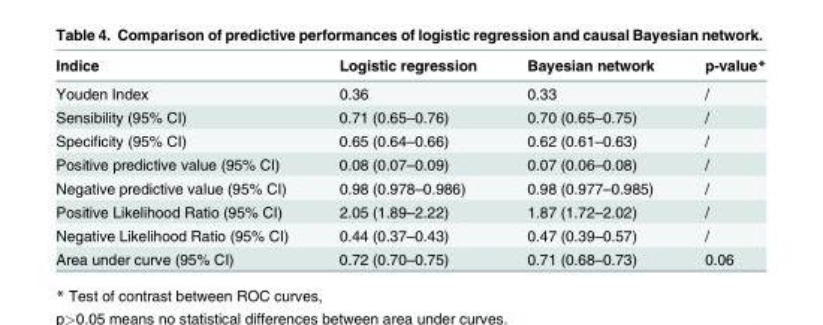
<table><thead><tr><td>Indice</td><td>Logistic regression</td><td>Bayesian network</td><td>p-value*</td></tr></thead><tbody><tr><td>Youden Index</td><td>0.36</td><td>0.33</td><td>/</td></tr><tr><td>Sensibility (95% CI)</td><td>0.71 (0.65–0.76)</td><td>0.70 (0.65–0.75)</td><td>/</td></tr><tr><td>Specificity (95% CI)</td><td>0.65 (0.64–0.66)</td><td>0.62 (0.61–0.63)</td><td>/</td></tr><tr><td>Positive predictive value (95% CI)</td><td>0.08 (0.07–0.09)</td><td>0.07 (0.06–0.08)</td><td>/</td></tr><tr><td>Negative predictive value (95% CI)</td><td>0.98 (0.978–0.986)</td><td>0.98 (0.977–0.985)</td><td>/</td></tr><tr><td>Positive Likelihood Ratio (95% CI)</td><td>2.05 (1.89–2.22)</td><td>1.87 (1.72–2.02)</td><td>/</td></tr><tr><td>Negative Likelihood Ratio (95% CI)</td><td>0.44 (0.37–0.43)</td><td>0.47 (0.39–0.57)</td><td>/</td></tr><tr><td>Area under curve (95% CI)</td><td>0.72 (0.70–0.75)</td><td>0.71 (0.68–0.73)</td><td>0.06</td></tr></tbody></table>